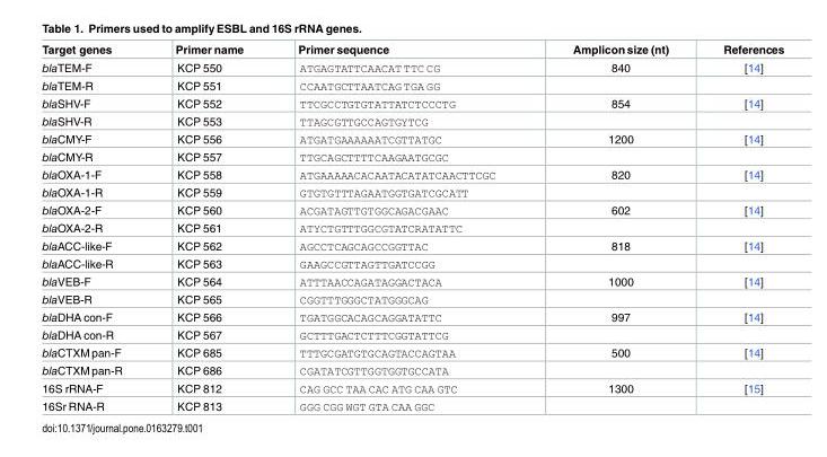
<table><thead><tr><td>Target genes</td><td>Primer name</td><td>Primer sequence</td><td>Amplicon size (nt)</td><td>References</td></tr></thead><tbody><tr><td>blaTEM-F</td><td>KCP 550</td><td>ATGAGTATTCAACAT TTC CG</td><td>840</td><td>[14]</td></tr><tr><td>blaTEM-R</td><td>KCP 551</td><td>CCAATGCTTAATCAG TGA GG</td><td></td><td></td></tr><tr><td>blaSHV-F</td><td>KCP 552</td><td>TTCGCCTGTGTATTATCTCCCTG</td><td>854</td><td>[14]</td></tr><tr><td>blaSHV-R</td><td>KCP 553</td><td>TTAGCGTTGCCAGTGYTCG</td><td></td><td></td></tr><tr><td>blaCMY-F</td><td>KCP 556</td><td>ATGATGAAAAAATCGTTATGC</td><td>1200</td><td>[14]</td></tr><tr><td>blaCMY-R</td><td>KCP 557</td><td>TTGCAGCTTTTCAAGAATGCGC</td><td></td><td></td></tr><tr><td>blaOXA-1-F</td><td>KCP 558</td><td>ATGAAAAACACAATACATATCAACTTCGC</td><td>820</td><td>[14]</td></tr><tr><td>blaOXA-1-R</td><td>KCP 559</td><td>GTGTGTTTAGAATGGTGATCGCATT</td><td></td><td></td></tr><tr><td>blaOXA-2-F</td><td>KCP 560</td><td>ACGATAGTTGTGGCAGACGAAC</td><td>602</td><td>[14]</td></tr><tr><td>blaOXA-2-R</td><td>KCP 561</td><td>ATYCTGTTTGGCGTATCRATATTC</td><td></td><td></td></tr><tr><td>blaACC-like-F</td><td>KCP 562</td><td>AGCCTCAGCAGCCGGTTAC</td><td>818</td><td>[14]</td></tr><tr><td>blaACC-like-R</td><td>KCP 563</td><td>GAAGCCGTTAGTTGATCCGG</td><td></td><td></td></tr><tr><td>blaVEB-F</td><td>KCP 564</td><td>ATTTAACCAGATAGGACTACA</td><td>1000</td><td>[14]</td></tr><tr><td>blaVEB-R</td><td>KCP 565</td><td>CGGTTTGGGCTATGGGCAG</td><td></td><td></td></tr><tr><td>blaDHA con-F</td><td>KCP 566</td><td>TGATGGCACAGCAGGATATTC</td><td>997</td><td>[14]</td></tr><tr><td>blaDHA con-R</td><td>KCP 567</td><td>GCTTTGACTCTTTCGGTATTCG</td><td></td><td></td></tr><tr><td>blaCTXM pan-F</td><td>KCP 685</td><td>TTTGCGATGTGCAGTACCAGTAA</td><td>500</td><td>[14]</td></tr><tr><td>blaCTXM pan-R</td><td>KCP 686</td><td>CGATATCGTTGGTGGTGCCATA</td><td></td><td></td></tr><tr><td>16S rRNA-F</td><td>KCP 812</td><td>CAG GCC TAA CAC ATG CAA GTC</td><td>1300</td><td>[15]</td></tr><tr><td>16Sr RNA-R</td><td>KCP 813</td><td>GGG CGG WGT GTA CAA GGC</td><td></td><td></td></tr></tbody></table>